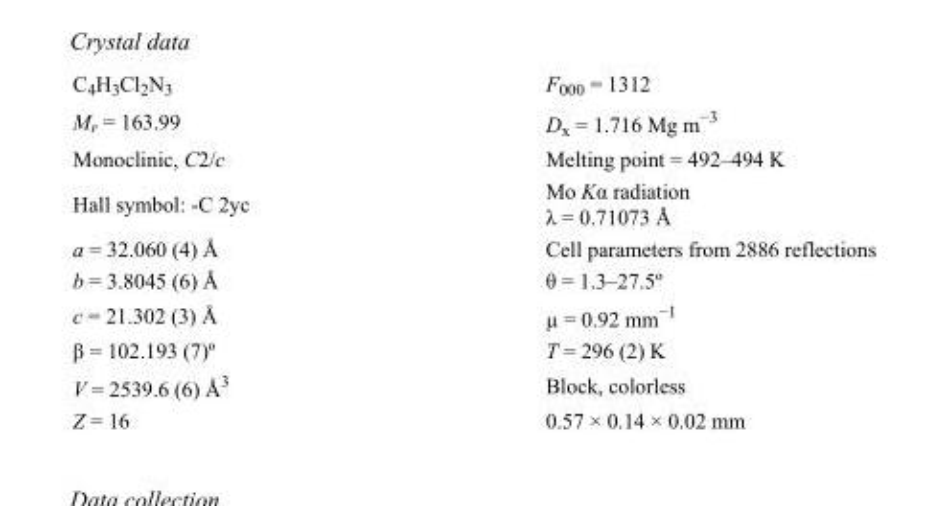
<table><tbody><tr><td>C<sub>4</sub>H<sub>3</sub>Cl<sub>2</sub>N<sub>3</sub></td><td>F<sub>000</sub> = 1312</td></tr><tr><td>M<sub>r</sub> = 163.99</td><td>D<sub>x</sub> = 1.716 Mg m<sup>−3</sup></td></tr><tr><td>Monoclinic, C2/c</td><td>Melting point = 492–494 K</td></tr><tr><td>Hall symbol: -C 2yc</td><td>Mo Kα radiation λ = 0.71073 Å</td></tr><tr><td>a = 32.060 (4) Å</td><td>Cell parameters from 2886 reflections</td></tr><tr><td>b = 3.8045 (6) Å</td><td>θ = 1.3–27.5º</td></tr><tr><td>c = 21.302 (3) Å</td><td>µ = 0.92 mm<sup>−1</sup></td></tr><tr><td>β = 102.193 (7)º</td><td>T = 296 (2) K</td></tr><tr><td>V = 2539.6 (6) Å<sup>3</sup></td><td>Block, colorless</td></tr><tr><td>Z = 16</td><td>0.57 × 0.14 × 0.02 mm</td></tr></tbody></table>